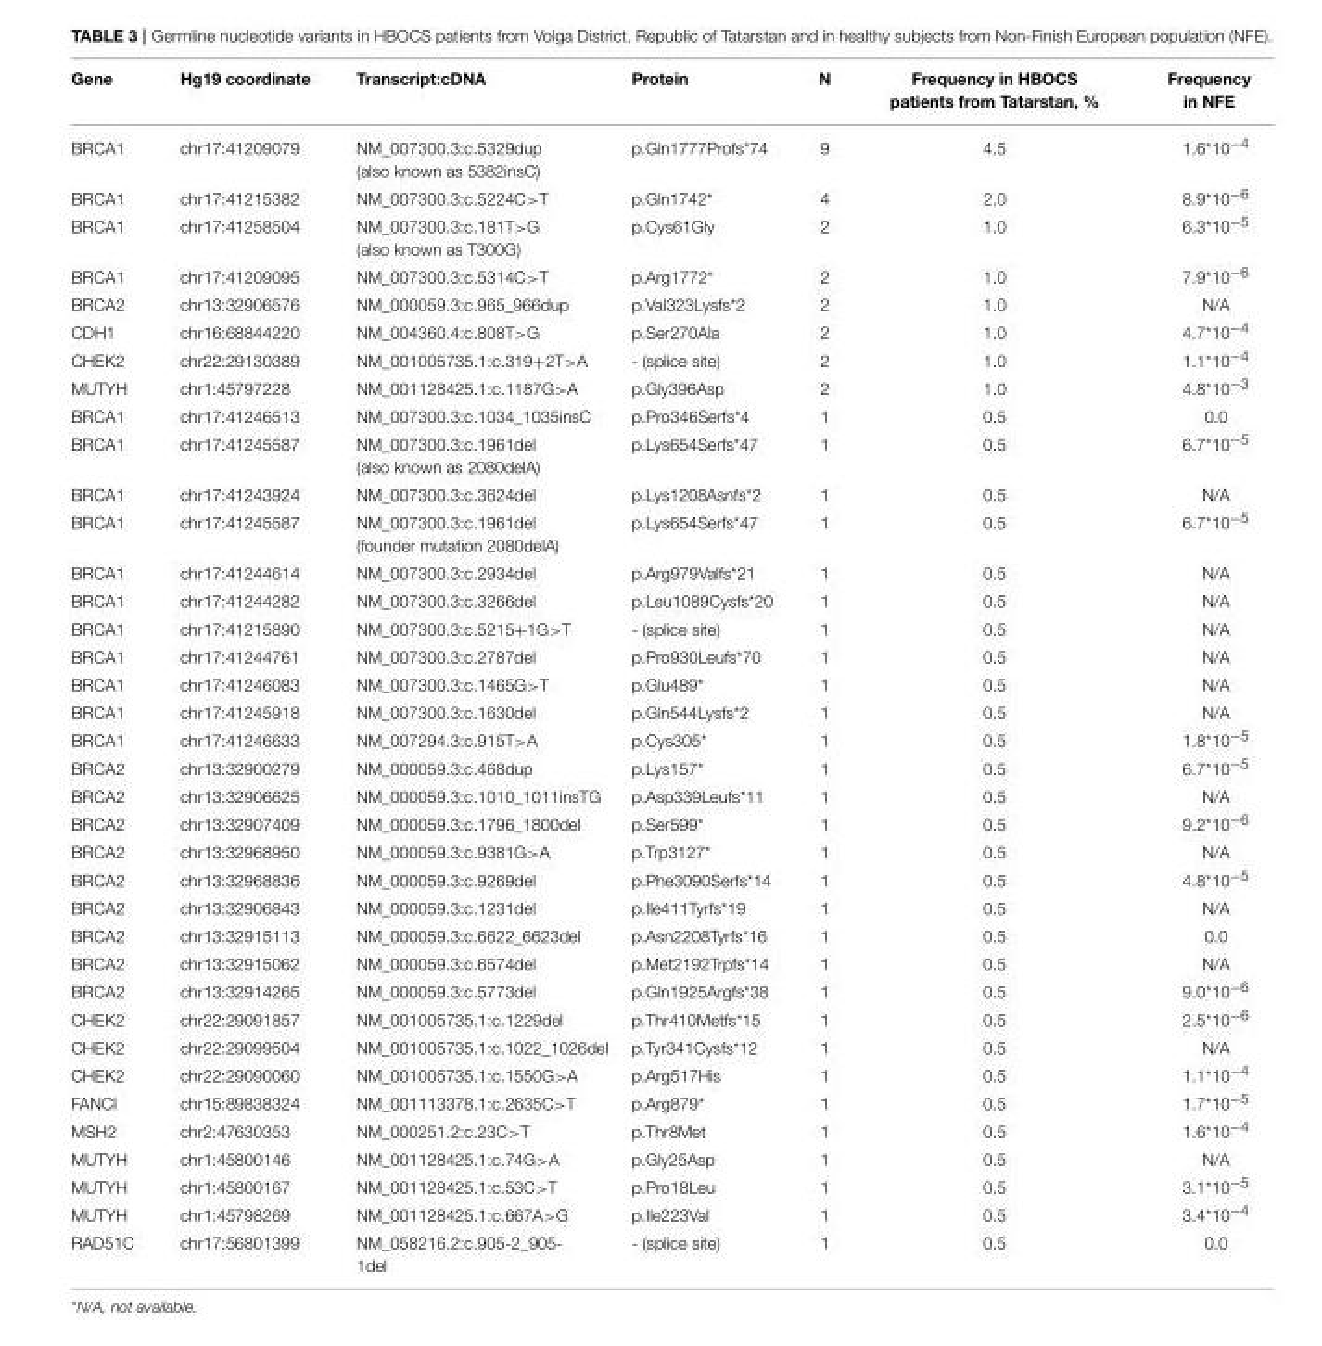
<table><thead><tr><td>Gene</td><td>Hg19 coordinate</td><td>Transcript:cDNA</td><td>Protein</td><td>N</td><td>Frequency in HBOCS patients from Tatarstan, %</td><td>Frequency in NFE</td></tr></thead><tbody><tr><td>BRCA1</td><td>chr17:41209079</td><td>NM_007300.3:c.5329dup (also known as 5382insC)</td><td>p.Gln1777Profs*74</td><td>9</td><td>4.5</td><td>1.6*10<sup>−4</sup></td></tr><tr><td>BRCA1</td><td>chr17:41215382</td><td>NM_007300.3:c.5224C&gt;T</td><td>p.Gln1742*</td><td>4</td><td>2.0</td><td>8.9*10<sup>−6</sup></td></tr><tr><td>BRCA1</td><td>chr17:41258504</td><td>NM_007300.3:c.181T&gt;G (also known as T300G)</td><td>p.Cys61Gly</td><td>2</td><td>1.0</td><td>6.3*10<sup>−5</sup></td></tr><tr><td>BRCA1</td><td>chr17:41209095</td><td>NM_007300.3:c.5314C&gt;T</td><td>p.Arg1772*</td><td>2</td><td>1.0</td><td>7.9*10<sup>−6</sup></td></tr><tr><td>BRCA2</td><td>chr13:32906576</td><td>NM_000059.3:c.965_966dup</td><td>p.Val323Lysfs*2</td><td>2</td><td>1.0</td><td>N/A</td></tr><tr><td>CDH1</td><td>chr16:68844220</td><td>NM_004360.4:c.808T&gt;G</td><td>p.Ser270Ala</td><td>2</td><td>1.0</td><td>4.7*10<sup>−4</sup></td></tr><tr><td>CHEK2</td><td>chr22:29130389</td><td>NM_001005735.1:c.319+2T&gt;A</td><td>- (splice site)</td><td>2</td><td>1.0</td><td>1.1*10<sup>−4</sup></td></tr><tr><td>MUTYH</td><td>chr1:45797228</td><td>NM_001128425.1:c.1187G&gt;A</td><td>p.Gly396Asp</td><td>2</td><td>1.0</td><td>4.8*10<sup>−3</sup></td></tr><tr><td>BRCA1</td><td>chr17:41246513</td><td>NM_007300.3:c.1034_1035insC</td><td>p.Pro346Serfs*4</td><td>1</td><td>0.5</td><td>0.0</td></tr><tr><td>BRCA1</td><td>chr17:41245587</td><td>NM_007300.3:c.1961del (also known as 2080delA)</td><td>p.Lys654Serfs*47</td><td>1</td><td>0.5</td><td>6.7*10<sup>−5</sup></td></tr><tr><td>BRCA1</td><td>chr17:41243924</td><td>NM_007300.3:c.3624del</td><td>p.Lys1208Asnfs*2</td><td>1</td><td>0.5</td><td>N/A</td></tr><tr><td>BRCA1</td><td>chr17:41245587</td><td>NM_007300.3:c.1961del (founder mutation 2080delA)</td><td>p.Lys654Serfs*47</td><td>1</td><td>0.5</td><td>6.7*10<sup>−5</sup></td></tr><tr><td>BRCA1</td><td>chr17:41244614</td><td>NM_007300.3:c.2934del</td><td>p.Arg979Valfs*21</td><td>1</td><td>0.5</td><td>N/A</td></tr><tr><td>BRCA1</td><td>chr17:41244282</td><td>NM_007300.3:c.3266del</td><td>p.Leu1089Cysfs*20</td><td>1</td><td>0.5</td><td>N/A</td></tr><tr><td>BRCA1</td><td>chr17:41215890</td><td>NM_007300.3:c.5215+1G&gt;T</td><td>- (splice site)</td><td>1</td><td>0.5</td><td>N/A</td></tr><tr><td>BRCA1</td><td>chr17:41244761</td><td>NM_007300.3:c.2787del</td><td>p.Pro930Leufs*70</td><td>1</td><td>0.5</td><td>N/A</td></tr><tr><td>BRCA1</td><td>chr17:41246083</td><td>NM_007300.3:c.1465G&gt;T</td><td>p.Glu489*</td><td>1</td><td>0.5</td><td>N/A</td></tr><tr><td>BRCA1</td><td>chr17:41245918</td><td>NM_007300.3:c.1630del</td><td>p.Gln544Lysfs*2</td><td>1</td><td>0.5</td><td>N/A</td></tr><tr><td>BRCA1</td><td>chr17:41246633</td><td>NM_007294.3:c.915T&gt;A</td><td>p.Cys305*</td><td>1</td><td>0.5</td><td>1.8*10<sup>−5</sup></td></tr><tr><td>BRCA2</td><td>chr13:32900279</td><td>NM_000059.3:c.468dup</td><td>p.Lys157*</td><td>1</td><td>0.5</td><td>6.7*10<sup>−5</sup></td></tr><tr><td>BRCA2</td><td>chr13:32906625</td><td>NM_000059.3:c.1010_1011insTG</td><td>p.Asp339Leufs*11</td><td>1</td><td>0.5</td><td>N/A</td></tr><tr><td>BRCA2</td><td>chr13:32907409</td><td>NM_000059.3:c.1796_1800del</td><td>p.Ser599*</td><td>1</td><td>0.5</td><td>9.2*10<sup>−6</sup></td></tr><tr><td>BRCA2</td><td>chr13:32968950</td><td>NM_000059.3:c.9381G&gt;A</td><td>p.Trp3127*</td><td>1</td><td>0.5</td><td>N/A</td></tr><tr><td>BRCA2</td><td>chr13:32968836</td><td>NM_000059.3:c.9269del</td><td>p.Phe3090Serfs*14</td><td>1</td><td>0.5</td><td>4.8*10<sup>−5</sup></td></tr><tr><td>BRCA2</td><td>chr13:32906843</td><td>NM_000059.3:c.1231del</td><td>p.Ile411Tyrfs*19</td><td>1</td><td>0.5</td><td>N/A</td></tr><tr><td>BRCA2</td><td>chr13:32915113</td><td>NM_000059.3:c.6622_6623del</td><td>p.Asn2208Tyrfs*16</td><td>1</td><td>0.5</td><td>0.0</td></tr><tr><td>BRCA2</td><td>chr13:32915062</td><td>NM_000059.3:c.6574del</td><td>p.Met2192Trpfs*14</td><td>1</td><td>0.5</td><td>N/A</td></tr><tr><td>BRCA2</td><td>chr13:32914265</td><td>NM_000059.3:c.5773del</td><td>p.Gln1925Argfs*38</td><td>1</td><td>0.5</td><td>9.0*10<sup>−6</sup></td></tr><tr><td>CHEK2</td><td>chr22:29091857</td><td>NM_001005735.1:c.1229del</td><td>p.Thr410Metfs*15</td><td>1</td><td>0.5</td><td>2.5*10<sup>−6</sup></td></tr><tr><td>CHEK2</td><td>chr22:29099504</td><td>NM_001005735.1:c.1022_1026del</td><td>p.Tyr341Cysfs*12</td><td>1</td><td>0.5</td><td>N/A</td></tr><tr><td>CHEK2</td><td>chr22:29090060</td><td>NM_001005735.1:c.1550G&gt;A</td><td>p.Arg517His</td><td>1</td><td>0.5</td><td>1.1*10<sup>−4</sup></td></tr><tr><td>FANCI</td><td>chr15:89838324</td><td>NM_001113378.1:c.2635C&gt;T</td><td>p.Arg879*</td><td>1</td><td>0.5</td><td>1.7*10<sup>−5</sup></td></tr><tr><td>MSH2</td><td>chr2:47630353</td><td>NM_000251.2:c.23C&gt;T</td><td>p.Thr8Met</td><td>1</td><td>0.5</td><td>1.6*10<sup>−4</sup></td></tr><tr><td>MUTYH</td><td>chr1:45800146</td><td>NM_001128425.1:c.74G&gt;A</td><td>p.Gly25Asp</td><td>1</td><td>0.5</td><td>N/A</td></tr><tr><td>MUTYH</td><td>chr1:45800167</td><td>NM_001128425.1:c.53C&gt;T</td><td>p.Pro18Leu</td><td>1</td><td>0.5</td><td>3.1*10<sup>−5</sup></td></tr><tr><td>MUTYH</td><td>chr1:45798269</td><td>NM_001128425.1:c.667A&gt;G</td><td>p.Ile223Val</td><td>1</td><td>0.5</td><td>3.4*10<sup>−4</sup></td></tr><tr><td>RAD51C</td><td>chr17:56801399</td><td>NM_058216.2:c.905-2_905- 1del</td><td>- (splice site)</td><td>1</td><td>0.5</td><td>0.0</td></tr></tbody></table>